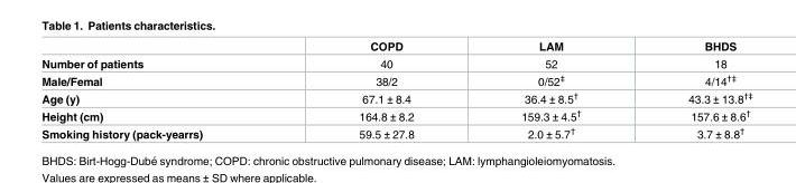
<table><thead><tr><td></td><td>COPD</td><td>LAM</td><td>BHDS</td></tr></thead><tbody><tr><td>Number of patients</td><td>40</td><td>52</td><td>18</td></tr><tr><td>Male/Femal</td><td>38/2</td><td>0/52<sup>‡</sup></td><td>4/14<sup>†‡</sup></td></tr><tr><td>Age (y)</td><td>67.1 ± 8.4</td><td>36.4 ± 8.5<sup>†</sup></td><td>43.3 ± 13.8<sup>†‡</sup></td></tr><tr><td>Height (cm)</td><td>164.8 ± 8.2</td><td>159.3 ± 4.5<sup>†</sup></td><td>157.6 ± 8.6<sup>†</sup></td></tr><tr><td>Smoking history (pack-yearrs)</td><td>59.5 ± 27.8</td><td>2.0 ± 5.7<sup>†</sup></td><td>3.7 ± 8.8<sup>†</sup></td></tr></tbody></table>